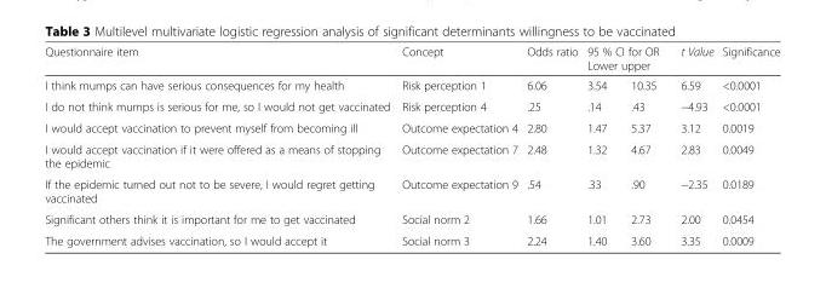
<table><thead><tr><td rowspan="2">Questionnaire item I think mumps can have serious consequences for my health</td><td rowspan="2">Concept Risk perception 1</td><td rowspan="2">Odds ratio 6.06</td><td colspan="2">95 % CI for OR Lower upper</td><td rowspan="2">t Value 6.59</td><td rowspan="2">Significance &lt;0.0001</td></tr><tr><td>3.54</td><td>10.35</td></tr></thead><tbody><tr><td>I do not think mumps is serious for me, so I would not get vaccinated</td><td>Risk perception 4</td><td>.25</td><td>.14</td><td>.43</td><td>−4.93</td><td>&lt;0.0001</td></tr><tr><td>I would accept vaccination to prevent myself from becoming ill</td><td>Outcome expectation 4</td><td>2.80</td><td>1.47</td><td>5.37</td><td>3.12</td><td>0.0019</td></tr><tr><td>I would accept vaccination if it were offered as a means of stopping the epidemic</td><td>Outcome expectation 7</td><td>2.48</td><td>1.32</td><td>4.67</td><td>2.83</td><td>0.0049</td></tr><tr><td>If the epidemic turned out not to be severe, I would regret getting vaccinated</td><td>Outcome expectation 9</td><td>.54</td><td>.33</td><td>.90</td><td>−2.35</td><td>0.0189</td></tr><tr><td>Significant others think it is important for me to get vaccinated</td><td>Social norm 2</td><td>1.66</td><td>1.01</td><td>2.73</td><td>2.00</td><td>0.0454</td></tr><tr><td>The government advises vaccination, so I would accept it</td><td>Social norm 3</td><td>2.24</td><td>1.40</td><td>3.60</td><td>3.35</td><td>0.0009</td></tr></tbody></table>